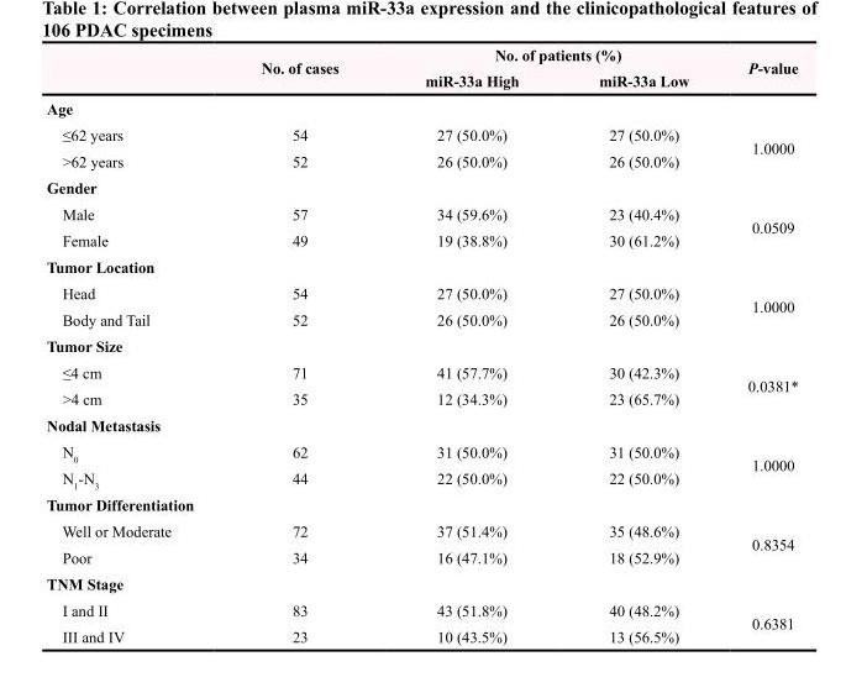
<table><thead><tr><td rowspan="2"></td><td rowspan="2">No. of cases</td><td colspan="2">No. of patients (%)</td><td rowspan="2">P-value</td></tr><tr><td>miR-33a High</td><td>miR-33a Low</td></tr></thead><tbody><tr><td colspan="5">Age</td></tr><tr><td>≤62 years</td><td>54</td><td>27 (50.0%)</td><td>27 (50.0%)</td><td rowspan="2">1.0000</td></tr><tr><td>&gt;62 years</td><td>52</td><td>26 (50.0%)</td><td>26 (50.0%)</td></tr><tr><td colspan="5">Gender</td></tr><tr><td>Male</td><td>57</td><td>34 (59.6%)</td><td>23 (40.4%)</td><td rowspan="2">0.0509</td></tr><tr><td>Female</td><td>49</td><td>19 (38.8%)</td><td>30 (61.2%)</td></tr><tr><td colspan="5">Tumor Location</td></tr><tr><td>Head</td><td>54</td><td>27 (50.0%)</td><td>27 (50.0%)</td><td rowspan="2">1.0000</td></tr><tr><td>Body and Tail</td><td>52</td><td>26 (50.0%)</td><td>26 (50.0%)</td></tr><tr><td colspan="5">Tumor Size</td></tr><tr><td>≤4 cm</td><td>71</td><td>41 (57.7%)</td><td>30 (42.3%)</td><td rowspan="2">0.0381*</td></tr><tr><td>&gt;4 cm</td><td>35</td><td>12 (34.3%)</td><td>23 (65.7%)</td></tr><tr><td colspan="5">Nodal Metastasis</td></tr><tr><td>N<sub>0</sub></td><td>62</td><td>31 (50.0%)</td><td>31 (50.0%)</td><td rowspan="2">1.0000</td></tr><tr><td>N<sub>1</sub>-N<sub>3</sub></td><td>44</td><td>22 (50.0%)</td><td>22 (50.0%)</td></tr><tr><td colspan="5">Tumor Differentiation</td></tr><tr><td>Well or Moderate</td><td>72</td><td>37 (51.4%)</td><td>35 (48.6%)</td><td rowspan="2">0.8354</td></tr><tr><td>Poor</td><td>34</td><td>16 (47.1%)</td><td>18 (52.9%)</td></tr><tr><td colspan="5">TNM Stage</td></tr><tr><td>I and II</td><td>83</td><td>43 (51.8%)</td><td>40 (48.2%)</td><td rowspan="2">0.6381</td></tr><tr><td>III and IV</td><td>23</td><td>10 (43.5%)</td><td>13 (56.5%)</td></tr></tbody></table>